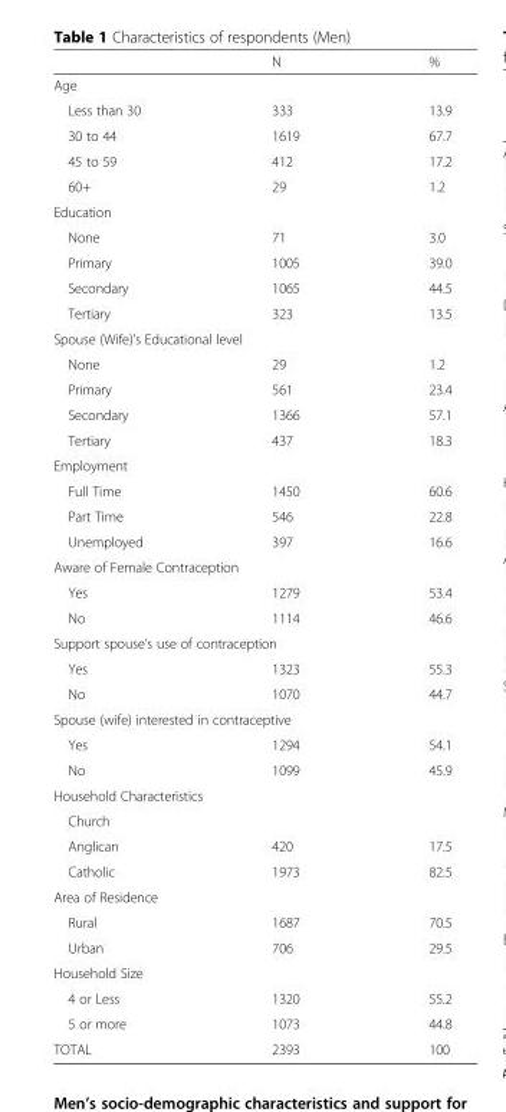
<table><thead><tr><td></td><td>N</td><td>%</td></tr></thead><tbody><tr><td colspan="3">Age</td></tr><tr><td>Less than 30</td><td>333</td><td>13.9</td></tr><tr><td>30 to 44</td><td>1619</td><td>67.7</td></tr><tr><td>45 to 59</td><td>412</td><td>17.2</td></tr><tr><td>60+</td><td>29</td><td>1.2</td></tr><tr><td colspan="3">Education</td></tr><tr><td>None</td><td>71</td><td>3.0</td></tr><tr><td>Primary</td><td>1005</td><td>39.0</td></tr><tr><td>Secondary</td><td>1065</td><td>44.5</td></tr><tr><td>Tertiary</td><td>323</td><td>13.5</td></tr><tr><td colspan="3">Spouse (Wife)’s Educational level</td></tr><tr><td>None</td><td>29</td><td>1.2</td></tr><tr><td>Primary</td><td>561</td><td>23.4</td></tr><tr><td>Secondary</td><td>1366</td><td>57.1</td></tr><tr><td>Tertiary</td><td>437</td><td>18.3</td></tr><tr><td colspan="3">Employment</td></tr><tr><td>Full Time</td><td>1450</td><td>60.6</td></tr><tr><td>Part Time</td><td>546</td><td>22.8</td></tr><tr><td>Unemployed</td><td>397</td><td>16.6</td></tr><tr><td colspan="3">Aware of Female Contraception</td></tr><tr><td>Yes</td><td>1279</td><td>53.4</td></tr><tr><td>No</td><td>1114</td><td>46.6</td></tr><tr><td colspan="3">Support spouse’s use of contraception</td></tr><tr><td>Yes</td><td>1323</td><td>55.3</td></tr><tr><td>No</td><td>1070</td><td>44.7</td></tr><tr><td colspan="3">Spouse (wife) interested in contraceptive</td></tr><tr><td>Yes</td><td>1294</td><td>54.1</td></tr><tr><td>No</td><td>1099</td><td>45.9</td></tr><tr><td colspan="3">Household Characteristics</td></tr><tr><td colspan="3">Church</td></tr><tr><td>Anglican</td><td>420</td><td>17.5</td></tr><tr><td>Catholic</td><td>1973</td><td>82.5</td></tr><tr><td colspan="3">Area of Residence</td></tr><tr><td>Rural</td><td>1687</td><td>70.5</td></tr><tr><td>Urban</td><td>706</td><td>29.5</td></tr><tr><td colspan="3">Household Size</td></tr><tr><td>4 or Less</td><td>1320</td><td>55.2</td></tr><tr><td>5 or more</td><td>1073</td><td>44.8</td></tr><tr><td>TOTAL</td><td>2393</td><td>100</td></tr></tbody></table>